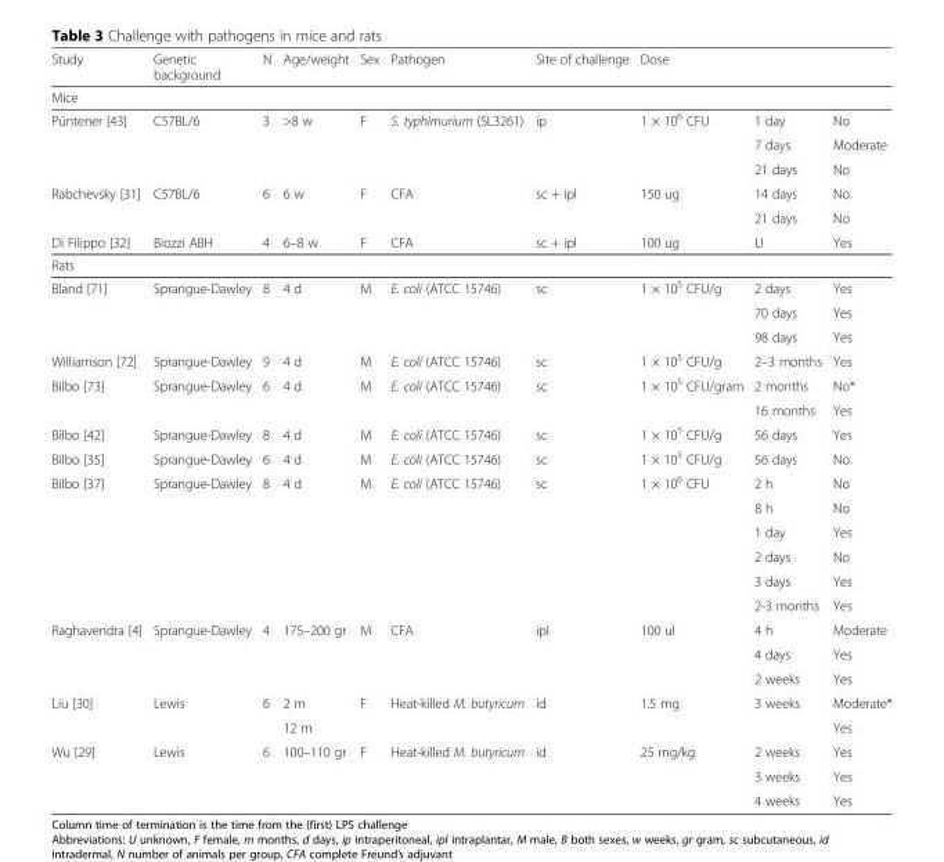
<table><thead><tr><td>Study</td><td>Genetic background</td><td>N</td><td>Age/weight</td><td>Sex</td><td>Pathogen</td><td>Site of challenge</td><td>Dose</td><td></td><td></td></tr></thead><tbody><tr><td colspan="10">Mice</td></tr><tr><td rowspan="3">Püntener [43]</td><td>C57BL/6</td><td>3</td><td>&gt;8 w</td><td>F</td><td>S. typhimurium (SL3261)</td><td>ip</td><td>1 × 10<sup>6</sup> CFU</td><td>1 day</td><td>No</td></tr><tr><td></td><td></td><td></td><td></td><td></td><td></td><td></td><td>7 days</td><td>Moderate</td></tr><tr><td></td><td></td><td></td><td></td><td></td><td></td><td></td><td>21 days</td><td>No</td></tr><tr><td rowspan="2">Rabchevsky [31]</td><td>C57BL/6</td><td>6</td><td>6 w</td><td>F</td><td>CFA</td><td>sc + ipl</td><td>150 ug</td><td>14 days</td><td>No</td></tr><tr><td></td><td></td><td></td><td></td><td></td><td></td><td></td><td>21 days</td><td>No</td></tr><tr><td>Di Filippo [32]</td><td>Biozzi ABH</td><td>4</td><td>6–8 w</td><td>F</td><td>CFA</td><td>sc + ipl</td><td>100 ug</td><td>U</td><td>Yes</td></tr><tr><td colspan="10">Rats</td></tr><tr><td rowspan="3">Bland [71]</td><td>Sprangue-Dawley</td><td>8</td><td>4 d</td><td>M</td><td>E. coli (ATCC 15746)</td><td>sc</td><td>1 × 10<sup>5</sup> CFU/g</td><td>2 days</td><td>Yes</td></tr><tr><td></td><td></td><td></td><td></td><td></td><td></td><td></td><td>70 days</td><td>Yes</td></tr><tr><td></td><td></td><td></td><td></td><td></td><td></td><td></td><td>98 days</td><td>Yes</td></tr><tr><td>Williamson [72]</td><td>Sprangue-Dawley</td><td>9</td><td>4 d</td><td>M</td><td>E. coli (ATCC 15746)</td><td>sc</td><td>1 × 10<sup>5</sup> CFU/g</td><td>2–3 months</td><td>Yes</td></tr><tr><td rowspan="2">Bilbo [73]</td><td>Sprangue-Dawley</td><td>6</td><td>4 d</td><td>M</td><td>E. coli (ATCC 15746)</td><td>sc</td><td>1 × 10<sup>5</sup> CFU/gram</td><td>2 months</td><td>No*</td></tr><tr><td></td><td></td><td></td><td></td><td></td><td></td><td></td><td>16 months</td><td>Yes</td></tr><tr><td>Bilbo [42]</td><td>Sprangue-Dawley</td><td>8</td><td>4 d</td><td>M</td><td>E. coli (ATCC 15746)</td><td>sc</td><td>1 × 10<sup>5</sup> CFU/g</td><td>56 days</td><td>Yes</td></tr><tr><td>Bilbo [35]</td><td>Sprangue-Dawley</td><td>6</td><td>4 d</td><td>M</td><td>E. coli (ATCC 15746)</td><td>sc</td><td>1 × 10<sup>5</sup> CFU/g</td><td>56 days</td><td>No</td></tr><tr><td rowspan="6">Bilbo [37]</td><td>Sprangue-Dawley</td><td>8</td><td>4 d</td><td>M</td><td>E. coli (ATCC 15746)</td><td>sc</td><td>1 × 10<sup>6</sup> CFU</td><td>2 h</td><td>No</td></tr><tr><td></td><td></td><td></td><td></td><td></td><td></td><td></td><td>8 h</td><td>No</td></tr><tr><td></td><td></td><td></td><td></td><td></td><td></td><td></td><td>1 day</td><td>Yes</td></tr><tr><td></td><td></td><td></td><td></td><td></td><td></td><td></td><td>2 days</td><td>No</td></tr><tr><td></td><td></td><td></td><td></td><td></td><td></td><td></td><td>3 days</td><td>Yes</td></tr><tr><td></td><td></td><td></td><td></td><td></td><td></td><td></td><td>2-3 months</td><td>Yes</td></tr><tr><td rowspan="3">Raghavendra [4]</td><td>Sprangue-Dawley</td><td>4</td><td>175–200 gr</td><td>M</td><td>CFA</td><td>ipl</td><td>100 ul</td><td>4 h</td><td>Moderate</td></tr><tr><td></td><td></td><td></td><td></td><td></td><td></td><td></td><td>4 days</td><td>Yes</td></tr><tr><td></td><td></td><td></td><td></td><td></td><td></td><td></td><td>2 weeks</td><td>Yes</td></tr><tr><td rowspan="2">Liu [30]</td><td>Lewis</td><td>6</td><td>2 m</td><td>F</td><td>Heat-killed M. butyricum</td><td>id</td><td>1.5 mg</td><td>3 weeks</td><td>Moderate*</td></tr><tr><td></td><td></td><td>12 m</td><td></td><td></td><td></td><td></td><td></td><td>Yes</td></tr><tr><td rowspan="3">Wu [29]</td><td>Lewis</td><td>6</td><td>100–110 gr</td><td>F</td><td>Heat-killed M. butyricum</td><td>id</td><td>25 mg/kg</td><td>2 weeks</td><td>Yes</td></tr><tr><td></td><td></td><td></td><td></td><td></td><td></td><td></td><td>3 weeks</td><td>Yes</td></tr><tr><td></td><td></td><td></td><td></td><td></td><td></td><td></td><td>4 weeks</td><td>Yes</td></tr></tbody></table>